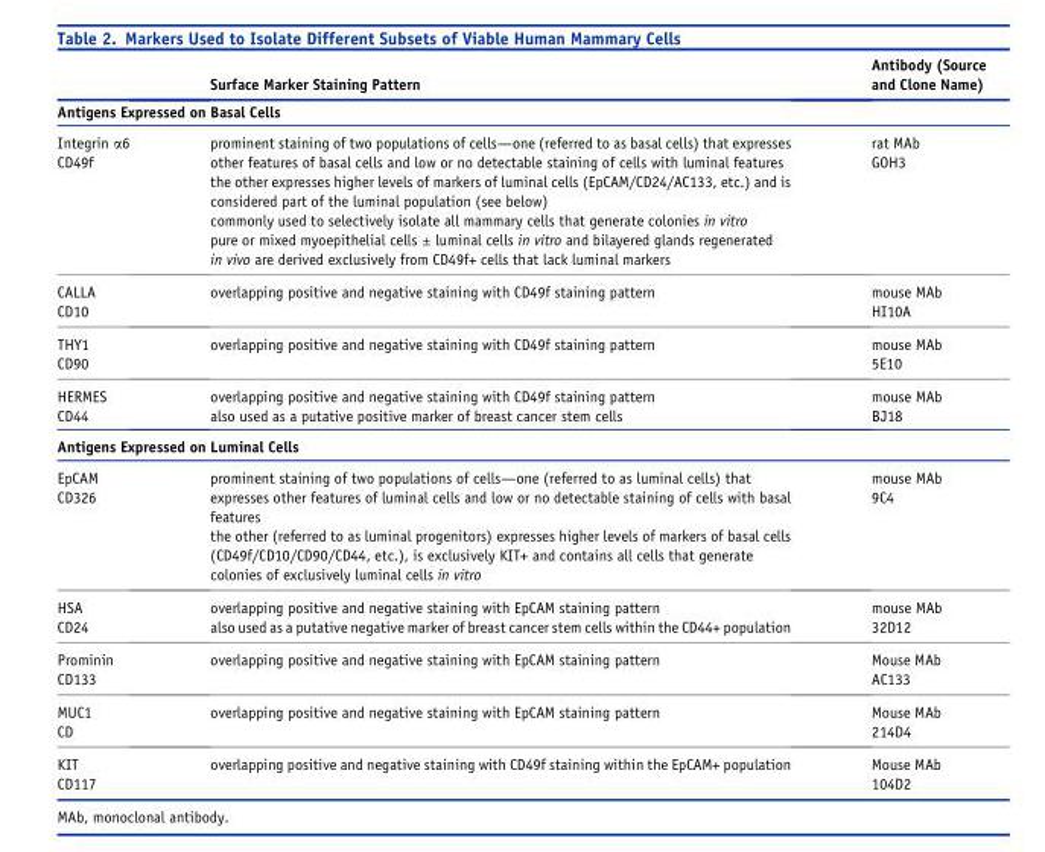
<table><thead><tr><td></td><td>Surface Marker Staining Pattern</td><td>Antibody (Source and Clone Name)</td></tr></thead><tbody><tr><td colspan="3">Antigens Expressed on Basal Cells</td></tr><tr><td>Integrin α6 CD49f</td><td>prominent staining of two populations of cells—one (referred to as basal cells) that expresses other features of basal cells and low or no detectable staining of cells with luminal features the other expresses higher levels of markers of luminal cells (EpCAM/CD24/AC133, etc.) and is considered part of the luminal population (see below) commonly used to selectively isolate all mammary cells that generate colonies in vitro pure or mixed myoepithelial cells ± luminal cells in vitro and bilayered glands regenerated in vivo are derived exclusively from CD49f+ cells that lack luminal markers</td><td>rat MAb GOH3</td></tr><tr><td>CALLA CD10</td><td>overlapping positive and negative staining with CD49f staining pattern</td><td>mouse MAb HI10A</td></tr><tr><td>THY1 CD90</td><td>overlapping positive and negative staining with CD49f staining pattern</td><td>mouse MAb 5E10</td></tr><tr><td>HERMES CD44</td><td>overlapping positive and negative staining with CD49f staining pattern also used as a putative positive marker of breast cancer stem cells</td><td>mouse MAb BJ18</td></tr><tr><td colspan="3">Antigens Expressed on Luminal Cells</td></tr><tr><td>EpCAM CD326</td><td>prominent staining of two populations of cells—one (referred to as luminal cells) that expresses other features of luminal cells and low or no detectable staining of cells with basal features the other (referred to as luminal progenitors) expresses higher levels of markers of basal cells (CD49f/CD10/CD90/CD44, etc.), is exclusively KIT+ and contains all cells that generate colonies of exclusively luminal cells in vitro</td><td>mouse MAb 9C4</td></tr><tr><td>HSA CD24</td><td>overlapping positive and negative staining with EpCAM staining pattern also used as a putative negative marker of breast cancer stem cells within the CD44+ population</td><td>mouse MAb 32D12</td></tr><tr><td>Prominin CD133</td><td>overlapping positive and negative staining with EpCAM staining pattern</td><td>Mouse MAb AC133</td></tr><tr><td>MUC1 CD</td><td>overlapping positive and negative staining with EpCAM staining pattern</td><td>Mouse MAb 214D4</td></tr><tr><td>KIT CD117</td><td>overlapping positive and negative staining with CD49f staining within the EpCAM+ population</td><td>Mouse MAb 104D2</td></tr></tbody></table>